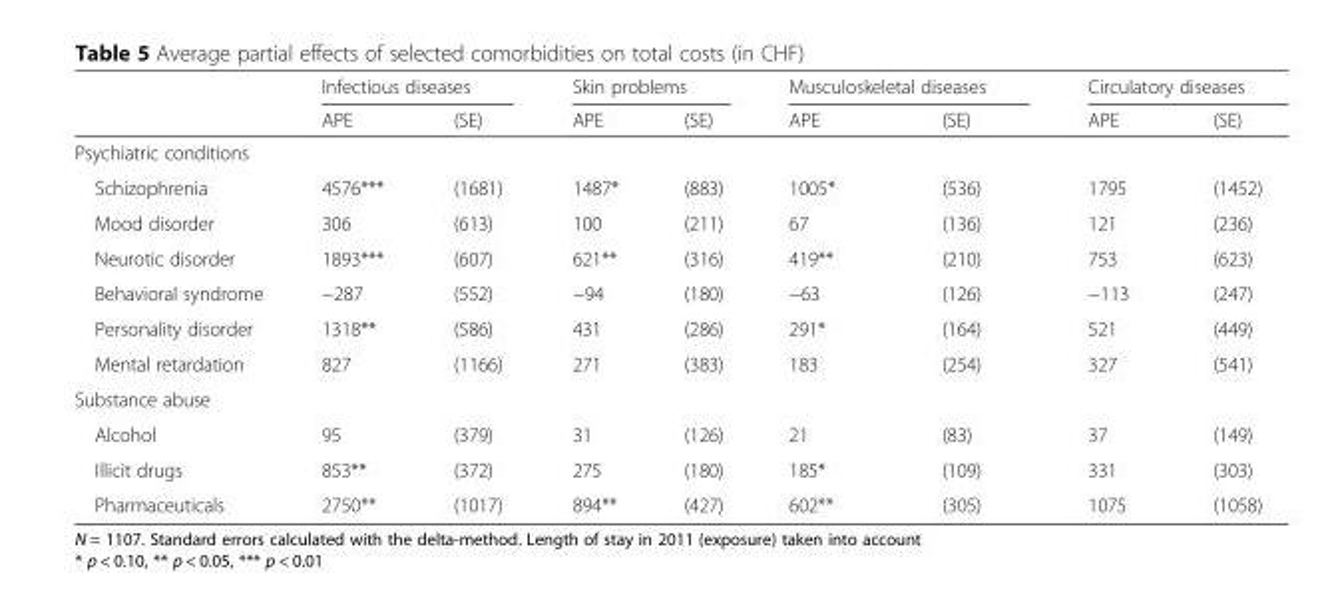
<table><thead><tr><td rowspan="2"></td><td colspan="2">Infectious diseases</td><td colspan="2">Skin problems</td><td colspan="2">Musculoskeletal diseases</td><td colspan="2">Circulatory diseases</td></tr><tr><td>APE</td><td>(SE)</td><td>APE</td><td>(SE)</td><td>APE</td><td>(SE)</td><td>APE</td><td>(SE)</td></tr></thead><tbody><tr><td colspan="9">Psychiatric conditions</td></tr><tr><td>Schizophrenia</td><td>4576***</td><td>(1681)</td><td>1487*</td><td>(883)</td><td>1005*</td><td>(536)</td><td>1795</td><td>(1452)</td></tr><tr><td>Mood disorder</td><td>306</td><td>(613)</td><td>100</td><td>(211)</td><td>67</td><td>(136)</td><td>121</td><td>(236)</td></tr><tr><td>Neurotic disorder</td><td>1893***</td><td>(607)</td><td>621**</td><td>(316)</td><td>419**</td><td>(210)</td><td>753</td><td>(623)</td></tr><tr><td>Behavioral syndrome</td><td>−287</td><td>(552)</td><td>−94</td><td>(180)</td><td>−63</td><td>(126)</td><td>−113</td><td>(247)</td></tr><tr><td>Personality disorder</td><td>1318**</td><td>(586)</td><td>431</td><td>(286)</td><td>291*</td><td>(164)</td><td>521</td><td>(449)</td></tr><tr><td>Mental retardation</td><td>827</td><td>(1166)</td><td>271</td><td>(383)</td><td>183</td><td>(254)</td><td>327</td><td>(541)</td></tr><tr><td colspan="9">Substance abuse</td></tr><tr><td>Alcohol</td><td>95</td><td>(379)</td><td>31</td><td>(126)</td><td>21</td><td>(83)</td><td>37</td><td>(149)</td></tr><tr><td>Illicit drugs</td><td>853**</td><td>(372)</td><td>275</td><td>(180)</td><td>185*</td><td>(109)</td><td>331</td><td>(303)</td></tr><tr><td>Pharmaceuticals</td><td>2750**</td><td>(1017)</td><td>894**</td><td>(427)</td><td>602**</td><td>(305)</td><td>1075</td><td>(1058)</td></tr></tbody></table>